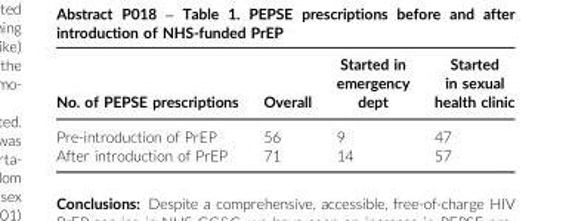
<table><thead><tr><td>No. of PEPSE prescriptions</td><td>Overall</td><td>Started in emergency dept</td><td>Started in sexual health clinic</td></tr></thead><tbody><tr><td>Pre-introduction of PrEP</td><td>56</td><td>9</td><td>47</td></tr><tr><td>After introduction of PrEP</td><td>71</td><td>14</td><td>57</td></tr></tbody></table>